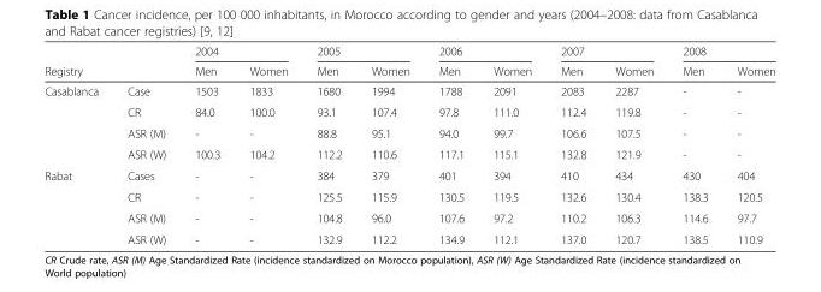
<table><thead><tr><td rowspan="2">Registry</td><td rowspan="2"></td><td colspan="2">2004</td><td colspan="2">2005</td><td colspan="2">2006</td><td colspan="2">2007</td><td colspan="2">2008</td></tr><tr><td>Men</td><td>Women</td><td>Men</td><td>Women</td><td>Men</td><td>Women</td><td>Men</td><td>Women</td><td>Men</td><td>Women</td></tr></thead><tbody><tr><td rowspan="4">Casablanca</td><td>Case</td><td>1503</td><td>1833</td><td>1680</td><td>1994</td><td>1788</td><td>2091</td><td>2083</td><td>2287</td><td>-</td><td>-</td></tr><tr><td>CR</td><td>84.0</td><td>100.0</td><td>93.1</td><td>107.4</td><td>97.8</td><td>111.0</td><td>112.4</td><td>119.8</td><td>-</td><td>-</td></tr><tr><td>ASR (M)</td><td>-</td><td>-</td><td>88.8</td><td>95.1</td><td>94.0</td><td>99.7</td><td>106.6</td><td>107.5</td><td>-</td><td>-</td></tr><tr><td>ASR (W)</td><td>100.3</td><td>104.2</td><td>112.2</td><td>110.6</td><td>117.1</td><td>115.1</td><td>132.8</td><td>121.9</td><td>-</td><td>-</td></tr><tr><td rowspan="4">Rabat</td><td>Cases</td><td>-</td><td>-</td><td>384</td><td>379</td><td>401</td><td>394</td><td>410</td><td>434</td><td>430</td><td>404</td></tr><tr><td>CR</td><td>-</td><td>-</td><td>125.5</td><td>115.9</td><td>130.5</td><td>119.5</td><td>132.6</td><td>130.4</td><td>138.3</td><td>120.5</td></tr><tr><td>ASR (M)</td><td>-</td><td>-</td><td>104.8</td><td>96.0</td><td>107.6</td><td>97.2</td><td>110.2</td><td>106.3</td><td>114.6</td><td>97.7</td></tr><tr><td>ASR (W)</td><td>-</td><td>-</td><td>132.9</td><td>112.2</td><td>134.9</td><td>112.1</td><td>137.0</td><td>120.7</td><td>138.5</td><td>110.9</td></tr></tbody></table>